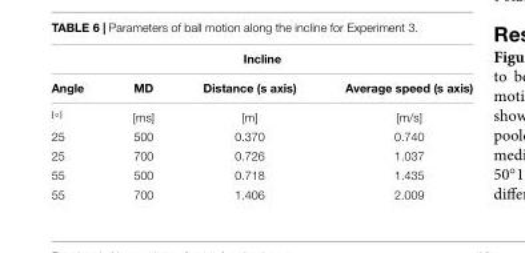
<table><thead><tr><td colspan="4">Incline</td></tr><tr><td>Angle</td><td>MD</td><td>Distance (s axis)</td><td>Average speed (s axis)</td></tr></thead><tbody><tr><td>[◦]</td><td>[ms]</td><td>[m]</td><td>[m/s]</td></tr><tr><td>25</td><td>500</td><td>0.370</td><td>0.740</td></tr><tr><td>25</td><td>700</td><td>0.726</td><td>1.037</td></tr><tr><td>55</td><td>500</td><td>0.718</td><td>1.435</td></tr><tr><td>55</td><td>700</td><td>1.406</td><td>2.009</td></tr></tbody></table>